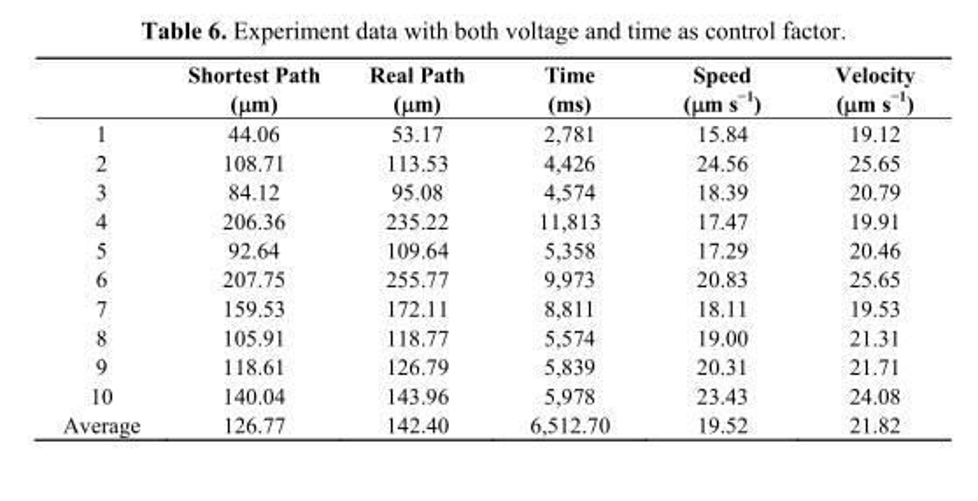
<table><thead><tr><td></td><td>Shortest Path (μm)</td><td>Real Path (μm)</td><td>Time (ms)</td><td>Speed (μm s<sup>−1</sup>)</td><td>Velocity (μm s<sup>−1</sup>)</td></tr></thead><tbody><tr><td>1</td><td>44.06</td><td>53.17</td><td>2,781</td><td>15.84</td><td>19.12</td></tr><tr><td>2</td><td>108.71</td><td>113.53</td><td>4,426</td><td>24.56</td><td>25.65</td></tr><tr><td>3</td><td>84.12</td><td>95.08</td><td>4,574</td><td>18.39</td><td>20.79</td></tr><tr><td>4</td><td>206.36</td><td>235.22</td><td>11,813</td><td>17.47</td><td>19.91</td></tr><tr><td>5</td><td>92.64</td><td>109.64</td><td>5,358</td><td>17.29</td><td>20.46</td></tr><tr><td>6</td><td>207.75</td><td>255.77</td><td>9,973</td><td>20.83</td><td>25.65</td></tr><tr><td>7</td><td>159.53</td><td>172.11</td><td>8,811</td><td>18.11</td><td>19.53</td></tr><tr><td>8</td><td>105.91</td><td>118.77</td><td>5,574</td><td>19.00</td><td>21.31</td></tr><tr><td>9</td><td>118.61</td><td>126.79</td><td>5,839</td><td>20.31</td><td>21.71</td></tr><tr><td>10</td><td>140.04</td><td>143.96</td><td>5,978</td><td>23.43</td><td>24.08</td></tr><tr><td>Average</td><td>126.77</td><td>142.40</td><td>6,512.70</td><td>19.52</td><td>21.82</td></tr></tbody></table>